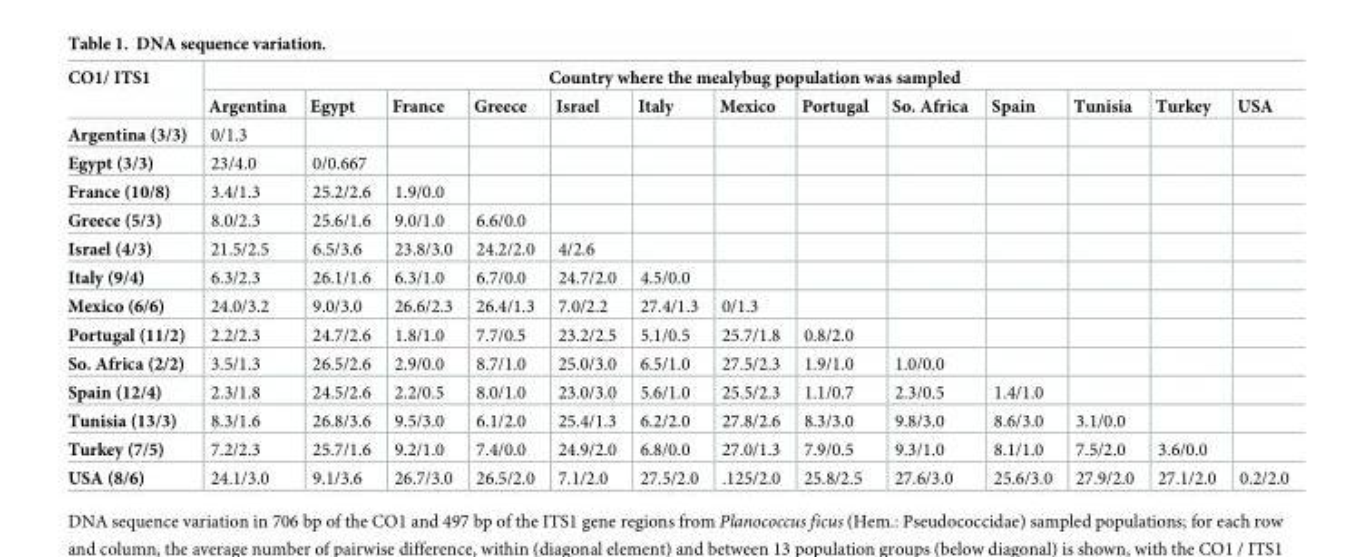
<table><thead><tr><td rowspan="2">CO1/ ITS1</td><td colspan="13">Country where the mealybug population was sampled</td></tr><tr><td>Argentina</td><td>Egypt</td><td>France</td><td>Greece</td><td>Israel</td><td>Italy</td><td>Mexico</td><td>Portugal</td><td>So. Africa</td><td>Spain</td><td>Tunisia</td><td>Turkey</td><td>USA</td></tr></thead><tbody><tr><td>Argentina (3/3)</td><td>0/1.3</td><td></td><td></td><td></td><td></td><td></td><td></td><td></td><td></td><td></td><td></td><td></td><td></td></tr><tr><td>Egypt (3/3)</td><td>23/4.0</td><td>0/0.667</td><td></td><td></td><td></td><td></td><td></td><td></td><td></td><td></td><td></td><td></td><td></td></tr><tr><td>France (10/8)</td><td>3.4/1.3</td><td>25.2/2.6</td><td>1.9/0.0</td><td></td><td></td><td></td><td></td><td></td><td></td><td></td><td></td><td></td><td></td></tr><tr><td>Greece (5/3)</td><td>8.0/2.3</td><td>25.6/1.6</td><td>9.0/1.0</td><td>6.6/0.0</td><td></td><td></td><td></td><td></td><td></td><td></td><td></td><td></td><td></td></tr><tr><td>Israel (4/3)</td><td>21.5/2.5</td><td>6.5/3.6</td><td>23.8/3.0</td><td>24.2/2.0</td><td>4/2.6</td><td></td><td></td><td></td><td></td><td></td><td></td><td></td><td></td></tr><tr><td>Italy (9/4)</td><td>6.3/2.3</td><td>26.1/1.6</td><td>6.3/1.0</td><td>6.7/0.0</td><td>24.7/2.0</td><td>4.5/0.0</td><td></td><td></td><td></td><td></td><td></td><td></td><td></td></tr><tr><td>Mexico (6/6)</td><td>24.0/3.2</td><td>9.0/3.0</td><td>26.6/2.3</td><td>26.4/1.3</td><td>7.0/2.2</td><td>27.4/1.3</td><td>0/1.3</td><td></td><td></td><td></td><td></td><td></td><td></td></tr><tr><td>Portugal (11/2)</td><td>2.2/2.3</td><td>24.7/2.6</td><td>1.8/1.0</td><td>7.7/0.5</td><td>23.2/2.5</td><td>5.1/0.5</td><td>25.7/1.8</td><td>0.8/2.0</td><td></td><td></td><td></td><td></td><td></td></tr><tr><td>So. Africa (2/2)</td><td>3.5/1.3</td><td>26.5/2.6</td><td>2.9/0.0</td><td>8.7/1.0</td><td>25.0/3.0</td><td>6.5/1.0</td><td>27.5/2.3</td><td>1.9/1.0</td><td>1.0/0.0</td><td></td><td></td><td></td><td></td></tr><tr><td>Spain (12/4)</td><td>2.3/1.8</td><td>24.5/2.6</td><td>2.2/0.5</td><td>8.0/1.0</td><td>23.0/3.0</td><td>5.6/1.0</td><td>25.5/2.3</td><td>1.1/0.7</td><td>2.3/0.5</td><td>1.4/1.0</td><td></td><td></td><td></td></tr><tr><td>Tunisia (13/3)</td><td>8.3/1.6</td><td>26.8/3.6</td><td>9.5/3.0</td><td>6.1/2.0</td><td>25.4/1.3</td><td>6.2/2.0</td><td>27.8/2.6</td><td>8.3/3.0</td><td>9.8/3.0</td><td>8.6/3.0</td><td>3.1/0.0</td><td></td><td></td></tr><tr><td>Turkey (7/5)</td><td>7.2/2.3</td><td>25.7/1.6</td><td>9.2/1.0</td><td>7.4/0.0</td><td>24.9/2.0</td><td>6.8/0.0</td><td>27.0/1.3</td><td>7.9/0.5</td><td>9.3/1.0</td><td>8.1/1.0</td><td>7.5/2.0</td><td>3.6/0.0</td><td></td></tr><tr><td>USA (8/6)</td><td>24.1/3.0</td><td>9.1/3.6</td><td>26.7/3.0</td><td>26.5/2.0</td><td>7.1/2.0</td><td>27.5/2.0</td><td>.125/2.0</td><td>25.8/2.5</td><td>27.6/3.0</td><td>25.6/3.0</td><td>27.9/2.0</td><td>27.1/2.0</td><td>0.2/2.0</td></tr></tbody></table>